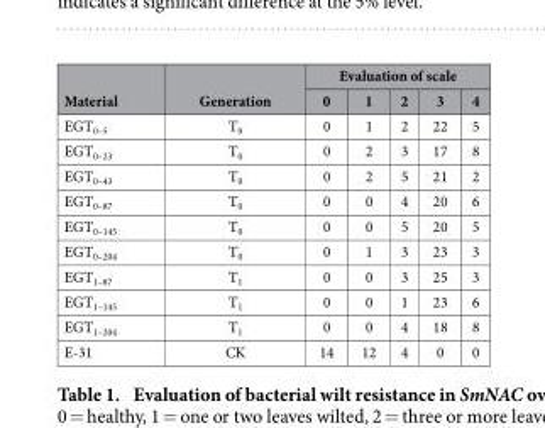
<table><thead><tr><td rowspan="2">Material</td><td rowspan="2">Generation</td><td colspan="5">Evaluation of scale</td></tr><tr><td>0</td><td>1</td><td>2</td><td>3</td><td>4</td></tr></thead><tbody><tr><td>EGT<sub>0–5</sub></td><td>T<sub>0</sub></td><td>0</td><td>1</td><td>2</td><td>22</td><td>5</td></tr><tr><td>EGT<sub>0–23</sub></td><td>T<sub>0</sub></td><td>0</td><td>2</td><td>3</td><td>17</td><td>8</td></tr><tr><td>EGT<sub>0–43</sub></td><td>T<sub>0</sub></td><td>0</td><td>2</td><td>5</td><td>21</td><td>2</td></tr><tr><td>EGT<sub>0–87</sub></td><td>T<sub>0</sub></td><td>0</td><td>0</td><td>4</td><td>20</td><td>6</td></tr><tr><td>EGT<sub>0–145</sub></td><td>T<sub>0</sub></td><td>0</td><td>0</td><td>5</td><td>20</td><td>5</td></tr><tr><td>EGT<sub>0–204</sub></td><td>T<sub>0</sub></td><td>0</td><td>1</td><td>3</td><td>23</td><td>3</td></tr><tr><td>EGT<sub>1–87</sub></td><td>T<sub>1</sub></td><td>0</td><td>0</td><td>3</td><td>25</td><td>3</td></tr><tr><td>EGT<sub>1–145</sub></td><td>T<sub>1</sub></td><td>0</td><td>0</td><td>1</td><td>23</td><td>6</td></tr><tr><td>EGT<sub>1–204</sub></td><td>T<sub>1</sub></td><td>0</td><td>0</td><td>4</td><td>18</td><td>8</td></tr><tr><td>E-31</td><td>CK</td><td>14</td><td>12</td><td>4</td><td>0</td><td>0</td></tr></tbody></table>